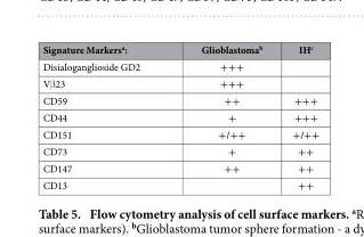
<table><thead><tr><td>Signature Markers<sup>a</sup>:</td><td>Glioblastoma<sup>b</sup></td><td>IH<sup>c</sup></td></tr></thead><tbody><tr><td>Disialoganglioside GD2</td><td>+++</td><td></td></tr><tr><td>Vβ 23</td><td>+++</td><td></td></tr><tr><td>CD59</td><td>++</td><td>+++</td></tr><tr><td>CD44</td><td>+</td><td>+++</td></tr><tr><td>CD151</td><td>+/++</td><td>+/++</td></tr><tr><td>CD73</td><td>+</td><td>++</td></tr><tr><td>CD147</td><td>++</td><td>++</td></tr><tr><td>CD13</td><td></td><td>++</td></tr></tbody></table>